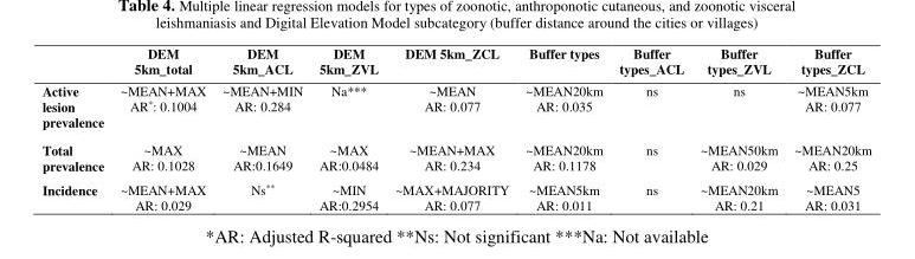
<table><thead><tr><td></td><td>DEM 5km_total</td><td>DEM 5km_ACL</td><td>DEM 5km_ZVL</td><td>DEM 5km_ZCL</td><td>Buffer types</td><td>Buffer types_ACL</td><td>Buffer types_ZVL</td><td>Buffer types_ZCL</td></tr></thead><tbody><tr><td>Active lesion prevalence</td><td>~MEAN+MAX AR*: 0.1004</td><td>~MEAN+MIN AR: 0.284</td><td>Na***</td><td>~MEAN AR: 0.077</td><td>~MEAN20km AR: 0.035</td><td>ns</td><td>ns</td><td>~MEAN5km AR: 0.077</td></tr><tr><td>Total prevalence</td><td>~MAX AR: 0.1028</td><td>~MEAN AR:0.1649</td><td>~MAX AR:0.0484</td><td>~MEAN+MAX AR: 0.234</td><td>~MEAN20km AR: 0.1178</td><td>ns</td><td>~MEAN50km AR: 0.029</td><td>~MEAN20km AR: 0.25</td></tr><tr><td>Incidence</td><td>~MEAN+MAX AR: 0.029</td><td>Ns**</td><td>~MIN AR:0.2954</td><td>~MAX+MAJORITY AR: 0.077</td><td>~MEAN5km AR: 0.011</td><td>ns</td><td>~MEAN20km AR: 0.21</td><td>~MEAN5 AR: 0.031</td></tr></tbody></table>